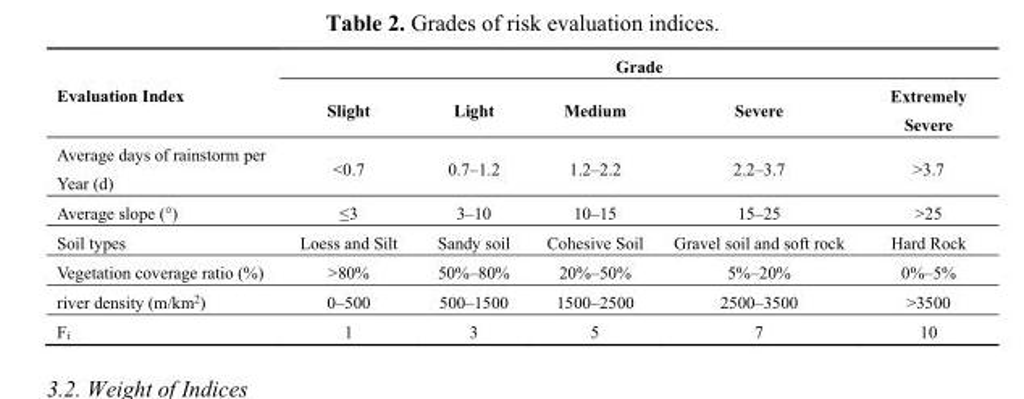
<table><thead><tr><td rowspan="2">Evaluation Index</td><td colspan="5">Grade</td></tr><tr><td>Slight</td><td>Light</td><td>Medium</td><td>Severe</td><td>Extremely Severe</td></tr></thead><tbody><tr><td>Average days of rainstorm per Year (d)</td><td>˂0.7</td><td>0.7–1.2</td><td>1.2–2.2</td><td>2.2–3.7</td><td>&gt;3.7</td></tr><tr><td>Average slope (°)</td><td>≤3</td><td>3–10</td><td>10–15</td><td>15–25</td><td>&gt;25</td></tr><tr><td>Soil types</td><td>Loess and Silt</td><td>Sandy soil</td><td>Cohesive Soil</td><td>Gravel soil and soft rock</td><td>Hard Rock</td></tr><tr><td>Vegetation coverage ratio (%)</td><td>&gt;80%</td><td>50%–80%</td><td>20%–50%</td><td>5%–20%</td><td>0%–5%</td></tr><tr><td>river density (m/km<sup>2</sup>)</td><td>0–500</td><td>500–1500</td><td>1500–2500</td><td>2500–3500</td><td>&gt;3500</td></tr><tr><td>F<sub>i</sub></td><td>1</td><td>3</td><td>5</td><td>7</td><td>10</td></tr></tbody></table>